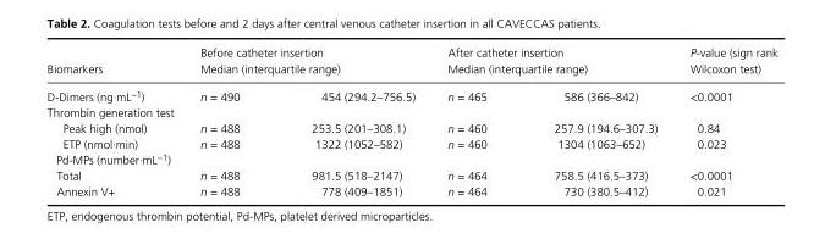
<table><thead><tr><td rowspan="2">Biomarkers D- Dimers (ng·mL<sup>−1</sup>)</td><td colspan="2">Before catheter insertion Median (interquartile range)</td><td colspan="2">After catheter insertion Median (interquartile range)</td><td rowspan="2">P- value (sign rank Wilcoxon test) &lt;0.0001</td></tr><tr><td>n = 490</td><td>454 (294.2–756.5)</td><td>n = 465</td><td>586 (366–842)</td></tr></thead><tbody><tr><td colspan="6">Thrombin generation test</td></tr><tr><td>Peak high (nmol)</td><td>n = 488</td><td>253.5 (201–308.1)</td><td>n = 460</td><td>257.9 (194.6–307.3)</td><td>0.84</td></tr><tr><td>ETP (nmol·min)</td><td>n = 488</td><td>1322 (1052–582)</td><td>n = 460</td><td>1304 (1063–652)</td><td>0.023</td></tr><tr><td colspan="6">Pd- MPs (number·mL<sup>−1</sup>)</td></tr><tr><td>Total</td><td>n = 488</td><td>981.5 (518–2147)</td><td>n = 464</td><td>758.5 (416.5–373)</td><td>&lt;0.0001</td></tr><tr><td>Annexin V+</td><td>n = 488</td><td>778 (409–1851)</td><td>n = 464</td><td>730 (380.5–412)</td><td>0.021</td></tr></tbody></table>